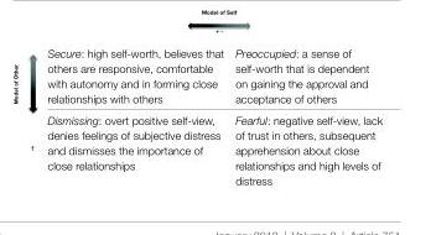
<table><tbody><tr><td>Secure: high self-worth, believes that others are responsive, comfortable with autonomy and in forming close relationships with others</td><td>Preoccupied: a sense of self-worth that is dependent on gaining the approval and acceptance of others</td></tr><tr><td>Dismissing: overt positive self-view, denies feelings of subjective distress and dismisses the importance of close relationships</td><td>Fearful: negative self-view, lack of trust in others, subsequent apprehension about close relationships and high levels of distress</td></tr></tbody></table>